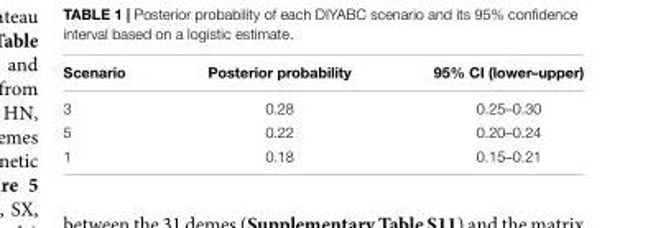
<table><thead><tr><td>Scenario</td><td>Posterior probability</td><td>95% CI (lower–upper)</td></tr></thead><tbody><tr><td>3</td><td>0.28</td><td>0.25–0.30</td></tr><tr><td>5</td><td>0.22</td><td>0.20–0.24</td></tr><tr><td>1</td><td>0.18</td><td>0.15–0.21</td></tr></tbody></table>